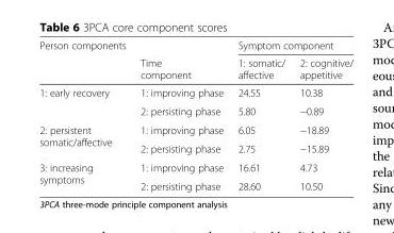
<table><thead><tr><td rowspan="2">Person components</td><td rowspan="2">Time component</td><td colspan="2">Symptom component</td></tr><tr><td>1: somatic/ affective</td><td>2: cognitive/ appetitive</td></tr></thead><tbody><tr><td rowspan="2">1: early recovery</td><td>1: improving phase</td><td>24.55</td><td>10.38</td></tr><tr><td>2: persisting phase</td><td>5.80</td><td>−0.89</td></tr><tr><td rowspan="2">2: persistent somatic/affective</td><td>1: improving phase</td><td>6.05</td><td>−18.89</td></tr><tr><td>2: persisting phase</td><td>2.75</td><td>−15.89</td></tr><tr><td rowspan="2">3: increasing symptoms</td><td>1: improving phase</td><td>16.61</td><td>4.73</td></tr><tr><td>2: persisting phase</td><td>28.60</td><td>10.50</td></tr></tbody></table>